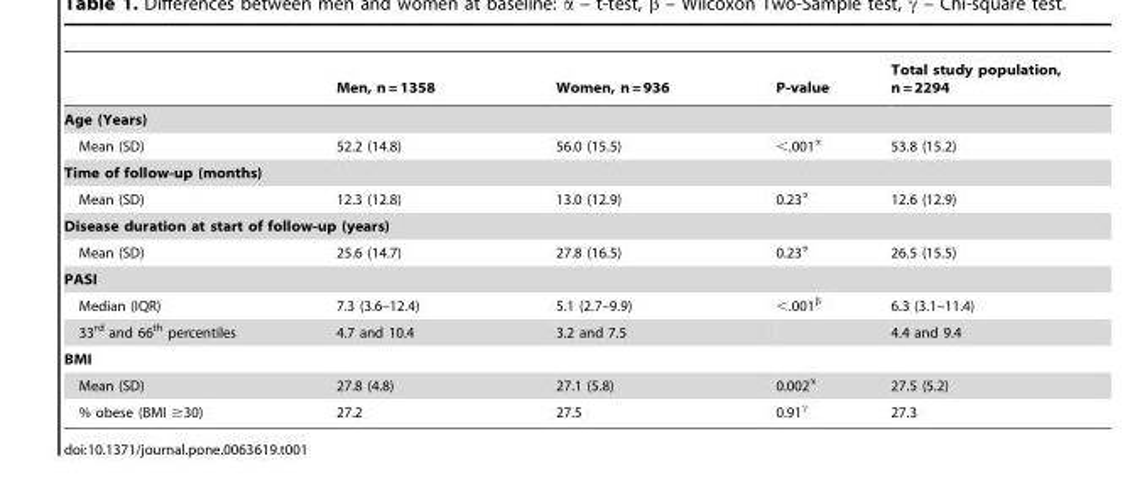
<table><thead><tr><td></td><td>Men, n = 1358</td><td>Women, n = 936</td><td>P-value</td><td>Total study population, n = 2294</td></tr></thead><tbody><tr><td colspan="5">Age (Years)</td></tr><tr><td>Mean (SD)</td><td>52.2 (14.8)</td><td>56.0 (15.5)</td><td>&lt;.001<sup>α</sup></td><td>53.8 (15.2)</td></tr><tr><td colspan="5">Time of follow-up (months)</td></tr><tr><td>Mean (SD)</td><td>12.3 (12.8)</td><td>13.0 (12.9)</td><td>0.23<sup>α</sup></td><td>12.6 (12.9)</td></tr><tr><td colspan="5">Disease duration at start of follow-up (years)</td></tr><tr><td>Mean (SD)</td><td>25.6 (14.7)</td><td>27.8 (16.5)</td><td>0.23<sup>α</sup></td><td>26.5 (15.5)</td></tr><tr><td colspan="5">PASI</td></tr><tr><td>Median (IQR)</td><td>7.3 (3.6–12.4)</td><td>5.1 (2.7–9.9)</td><td>&lt;.001<sup>β</sup></td><td>6.3 (3.1–11.4)</td></tr><tr><td>33<sup>rd</sup> and 66<sup>th</sup> percentiles</td><td>4.7 and 10.4</td><td>3.2 and 7.5</td><td></td><td>4.4 and 9.4</td></tr><tr><td colspan="5">BMI</td></tr><tr><td>Mean (SD)</td><td>27.8 (4.8)</td><td>27.1 (5.8)</td><td>0.002<sup>α</sup></td><td>27.5 (5.2)</td></tr><tr><td>% obese (BMI ≥30)</td><td>27.2</td><td>27.5</td><td>0.91<sup>γ</sup></td><td>27.3</td></tr></tbody></table>